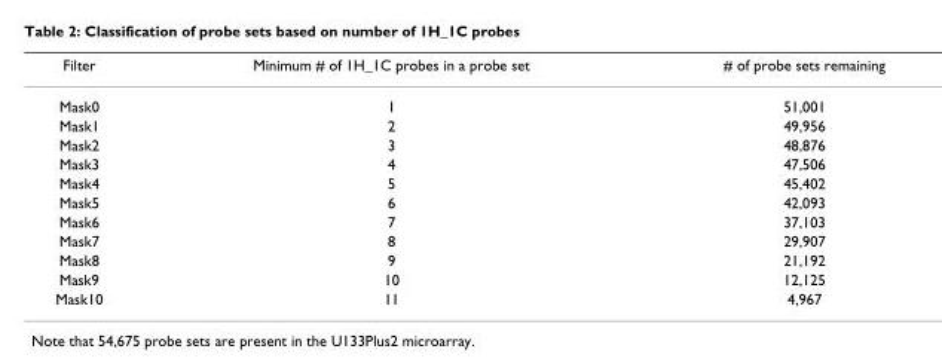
<table><thead><tr><td>Filter</td><td>Minimum # of 1H_1C probes in a probe set</td><td># of probe sets remaining</td></tr></thead><tbody><tr><td>Mask0</td><td>1</td><td>51,001</td></tr><tr><td>Mask1</td><td>2</td><td>49,956</td></tr><tr><td>Mask2</td><td>3</td><td>48,876</td></tr><tr><td>Mask3</td><td>4</td><td>47,506</td></tr><tr><td>Mask4</td><td>5</td><td>45,402</td></tr><tr><td>Mask5</td><td>6</td><td>42,093</td></tr><tr><td>Mask6</td><td>7</td><td>37,103</td></tr><tr><td>Mask7</td><td>8</td><td>29,907</td></tr><tr><td>Mask8</td><td>9</td><td>21,192</td></tr><tr><td>Mask9</td><td>10</td><td>12,125</td></tr><tr><td>Mask10</td><td>11</td><td>4,967</td></tr></tbody></table>